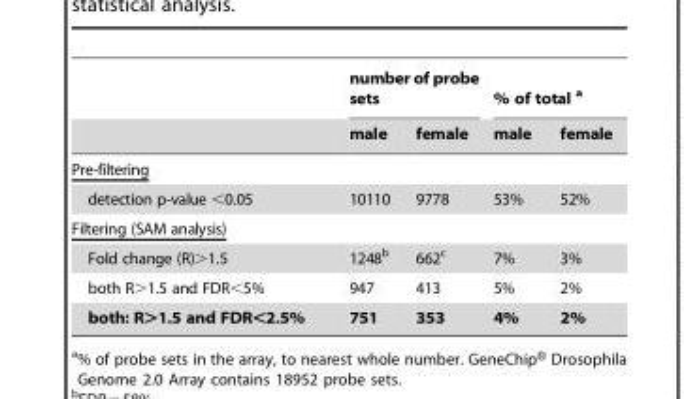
<table><thead><tr><td rowspan="2"></td><td colspan="2">number of probe sets</td><td colspan="2">% of total a</td></tr><tr><td>male</td><td>female</td><td>male</td><td>female</td></tr></thead><tbody><tr><td colspan="5">Pre-filtering</td></tr><tr><td>detection p-value &lt;0.05</td><td>10110</td><td>9778</td><td>53%</td><td>52%</td></tr><tr><td colspan="5">Filtering (SAM analysis)</td></tr><tr><td>Fold change (R)&gt;1.5</td><td>1248<sup>b</sup></td><td>662<sup>c</sup></td><td>7%</td><td>3%</td></tr><tr><td>both R&gt;1.5 and FDR&lt;5%</td><td>947</td><td>413</td><td>5%</td><td>2%</td></tr><tr><td>both: R&gt;1.5 and FDR&lt;2.5%</td><td>751</td><td>353</td><td>4%</td><td>2%</td></tr></tbody></table>